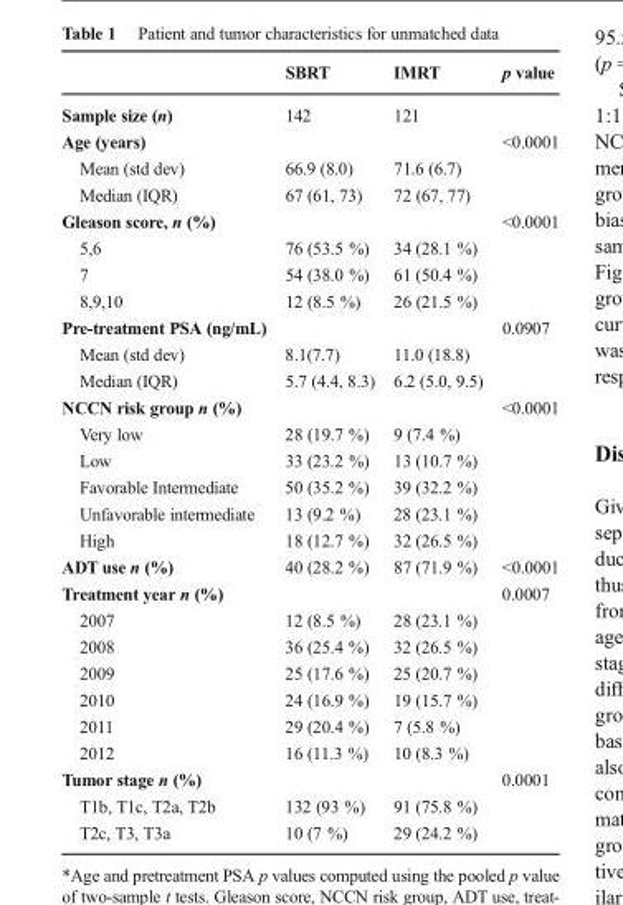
<table><thead><tr><td></td><td>SBRT</td><td>IMRT</td><td>p value</td></tr></thead><tbody><tr><td>Sample size (n)</td><td>142</td><td>121</td><td></td></tr><tr><td>Age (years)</td><td></td><td></td><td>&lt;0.0001</td></tr><tr><td>Mean (std dev)</td><td>66.9 (8.0)</td><td>71.6 (6.7)</td><td></td></tr><tr><td>Median (IQR)</td><td>67 (61, 73)</td><td>72 (67, 77)</td><td></td></tr><tr><td>Gleason score, n (%)</td><td></td><td></td><td>&lt;0.0001</td></tr><tr><td>5,6</td><td>76 (53.5 %)</td><td>34 (28.1 %)</td><td></td></tr><tr><td>7</td><td>54 (38.0 %)</td><td>61 (50.4 %)</td><td></td></tr><tr><td>8,9,10</td><td>12 (8.5 %)</td><td>26 (21.5 %)</td><td></td></tr><tr><td>Pre-treatment PSA (ng/mL)</td><td></td><td></td><td>0.0907</td></tr><tr><td>Mean (std dev)</td><td>8.1(7.7)</td><td>11.0 (18.8)</td><td></td></tr><tr><td>Median (IQR)</td><td>5.7 (4.4, 8.3)</td><td>6.2 (5.0, 9.5)</td><td></td></tr><tr><td>NCCN risk group n (%)</td><td></td><td></td><td>&lt;0.0001</td></tr><tr><td>Very low</td><td>28 (19.7 %)</td><td>9 (7.4 %)</td><td></td></tr><tr><td>Low</td><td>33 (23.2 %)</td><td>13 (10.7 %)</td><td></td></tr><tr><td>Favorable Intermediate</td><td>50 (35.2 %)</td><td>39 (32.2 %)</td><td></td></tr><tr><td>Unfavorable intermediate</td><td>13 (9.2 %)</td><td>28 (23.1 %)</td><td></td></tr><tr><td>High</td><td>18 (12.7 %)</td><td>32 (26.5 %)</td><td></td></tr><tr><td>ADT use n (%)</td><td>40 (28.2 %)</td><td>87 (71.9 %)</td><td>&lt;0.0001</td></tr><tr><td>Treatment year n (%)</td><td></td><td></td><td>0.0007</td></tr><tr><td>2007</td><td>12 (8.5 %)</td><td>28 (23.1 %)</td><td></td></tr><tr><td>2008</td><td>36 (25.4 %)</td><td>32 (26.5 %)</td><td></td></tr><tr><td>2009</td><td>25 (17.6 %)</td><td>25 (20.7 %)</td><td></td></tr><tr><td>2010</td><td>24 (16.9 %)</td><td>19 (15.7 %)</td><td></td></tr><tr><td>2011</td><td>29 (20.4 %)</td><td>7 (5.8 %)</td><td></td></tr><tr><td>2012</td><td>16 (11.3 %)</td><td>10 (8.3 %)</td><td></td></tr><tr><td>Tumor stage n (%)</td><td></td><td></td><td>0.0001</td></tr><tr><td>T1b, T1c, T2a, T2b</td><td>132 (93 %)</td><td>91 (75.8 %)</td><td></td></tr><tr><td>T2c, T3, T3a</td><td>10 (7 %)</td><td>29 (24.2 %)</td><td></td></tr></tbody></table>